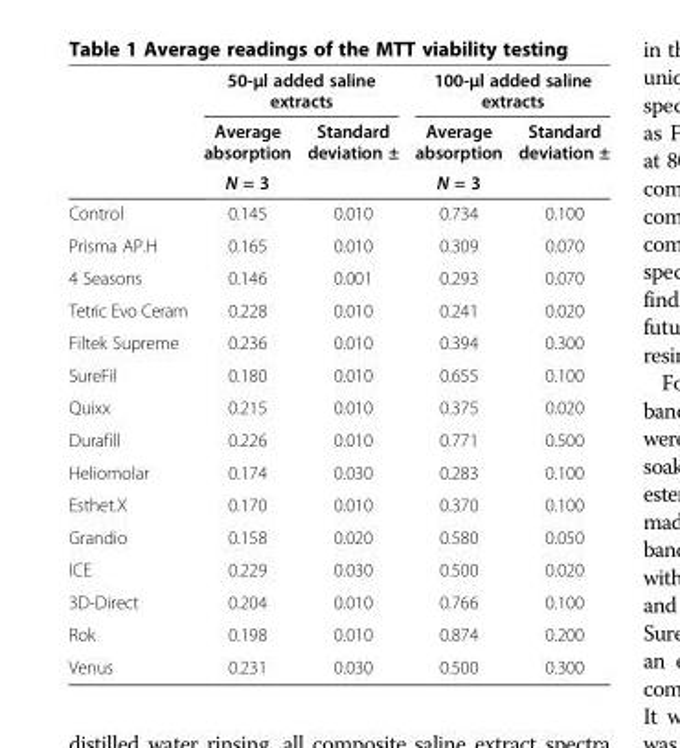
<table><thead><tr><td rowspan="3"></td><td colspan="2">50-μl added saline extracts</td><td colspan="2">100-μl added saline extracts</td></tr><tr><td rowspan="2">Average absorption N = 3</td><td rowspan="2">Standard deviation ±</td><td rowspan="2">Average absorption N = 3</td><td rowspan="2">Standard deviation ±</td></tr><tr></tr></thead><tbody><tr><td>Control</td><td>0.145</td><td>0.010</td><td>0.734</td><td>0.100</td></tr><tr><td>Prisma AP.H</td><td>0.165</td><td>0.010</td><td>0.309</td><td>0.070</td></tr><tr><td>4 Seasons</td><td>0.146</td><td>0.001</td><td>0.293</td><td>0.070</td></tr><tr><td>Tetric Evo Ceram</td><td>0.228</td><td>0.010</td><td>0.241</td><td>0.020</td></tr><tr><td>Filtek Supreme</td><td>0.236</td><td>0.010</td><td>0.394</td><td>0.300</td></tr><tr><td>SureFil</td><td>0.180</td><td>0.010</td><td>0.655</td><td>0.100</td></tr><tr><td>Quixx</td><td>0.215</td><td>0.010</td><td>0.375</td><td>0.020</td></tr><tr><td>Durafill</td><td>0.226</td><td>0.010</td><td>0.771</td><td>0.500</td></tr><tr><td>Heliomolar</td><td>0.174</td><td>0.030</td><td>0.283</td><td>0.100</td></tr><tr><td>Esthet.X</td><td>0.170</td><td>0.010</td><td>0.370</td><td>0.100</td></tr><tr><td>Grandio</td><td>0.158</td><td>0.020</td><td>0.580</td><td>0.050</td></tr><tr><td>ICE</td><td>0.229</td><td>0.030</td><td>0.500</td><td>0.020</td></tr><tr><td>3D-Direct</td><td>0.204</td><td>0.010</td><td>0.766</td><td>0.100</td></tr><tr><td>Rok</td><td>0.198</td><td>0.010</td><td>0.874</td><td>0.200</td></tr><tr><td>Venus</td><td>0.231</td><td>0.030</td><td>0.500</td><td>0.300</td></tr></tbody></table>